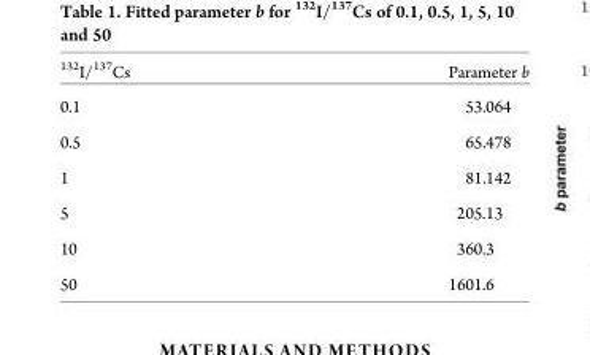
<table><thead><tr><td><sup>132</sup>I/<sup>137</sup>Cs</td><td>Parameter b</td></tr></thead><tbody><tr><td>0.1</td><td>53.064</td></tr><tr><td>0.5</td><td>65.478</td></tr><tr><td>1</td><td>81.142</td></tr><tr><td>5</td><td>205.13</td></tr><tr><td>10</td><td>360.3</td></tr><tr><td>50</td><td>1601.6</td></tr></tbody></table>